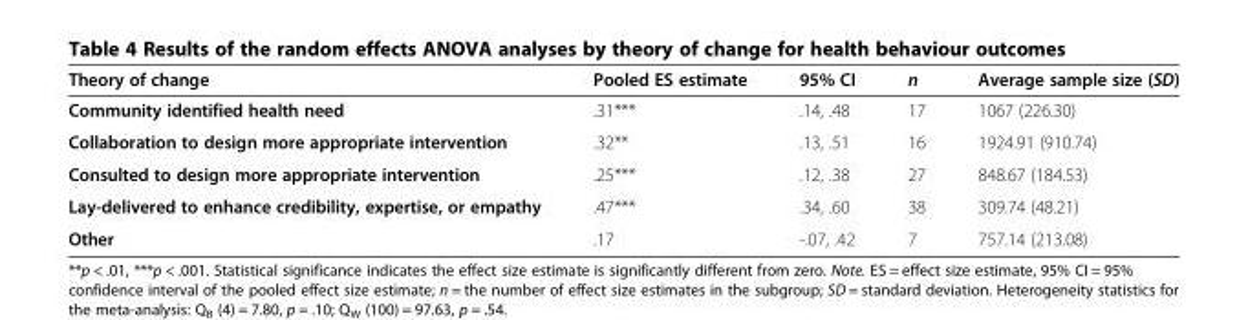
<table><thead><tr><td>Theory of change</td><td>Pooled ES estimate</td><td>95% CI</td><td>n</td><td>Average sample size (SD)</td></tr></thead><tbody><tr><td>Community identified health need</td><td>.31***</td><td>.14, .48</td><td>17</td><td>1067 (226.30)</td></tr><tr><td>Collaboration to design more appropriate intervention</td><td>.32**</td><td>.13, .51</td><td>16</td><td>1924.91 (910.74)</td></tr><tr><td>Consulted to design more appropriate intervention</td><td>.25***</td><td>.12, .38</td><td>27</td><td>848.67 (184.53)</td></tr><tr><td>Lay-delivered to enhance credibility, expertise, or empathy</td><td>.47***</td><td>.34, .60</td><td>38</td><td>309.74 (48.21)</td></tr><tr><td>Other</td><td>.17</td><td>-.07, .42</td><td>7</td><td>757.14 (213.08)</td></tr></tbody></table>